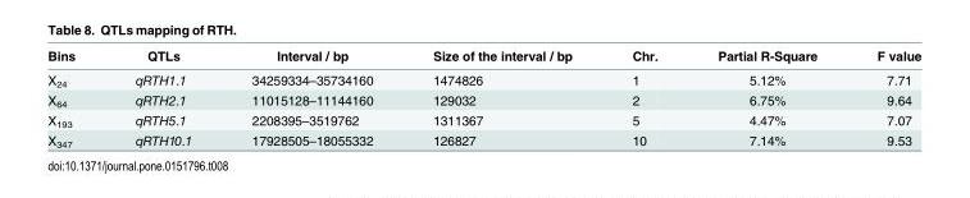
<table><thead><tr><td>Bins</td><td>QTLs</td><td>Interval / bp</td><td>Size of the interval / bp</td><td>Chr.</td><td>Partial R-Square</td><td>F value</td></tr></thead><tbody><tr><td>X<sub>24</sub></td><td>qRTH1.1</td><td>34259334–35734160</td><td>1474826</td><td>1</td><td>5.12%</td><td>7.71</td></tr><tr><td>X<sub>64</sub></td><td>qRTH2.1</td><td>11015128–11144160</td><td>129032</td><td>2</td><td>6.75%</td><td>9.64</td></tr><tr><td>X<sub>193</sub></td><td>qRTH5.1</td><td>2208395–3519762</td><td>1311367</td><td>5</td><td>4.47%</td><td>7.07</td></tr><tr><td>X<sub>347</sub></td><td>qRTH10.1</td><td>17928505–18055332</td><td>126827</td><td>10</td><td>7.14%</td><td>9.53</td></tr></tbody></table>